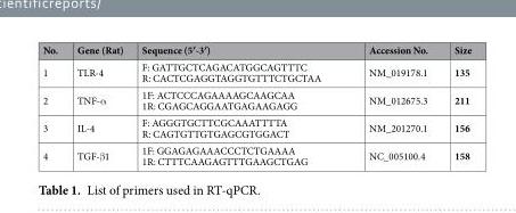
<table><thead><tr><td>No.</td><td>Gene (Rat)</td><td>Sequence (5′-3′)</td><td>Accession No.</td><td>Size</td></tr></thead><tbody><tr><td>1</td><td>TLR-4</td><td>F: GATTGCTCAGACATGGCAGTTTC R: CACTCGAGGTAGGTGTTTCTGCTAA</td><td>NM_019178.1</td><td>135</td></tr><tr><td>2</td><td>TNF-α</td><td>1F: ACTCCCAGAAAAGCAAGCAA 1R: CGAGCAGGAATGAGAAGAGG</td><td>NM_012675.3</td><td>211</td></tr><tr><td>3</td><td>IL-4</td><td>F: AGGGTGCTTCGCAAATTTTA R: CAGTGTTGTGAGCGTGGACT</td><td>NM_201270.1</td><td>156</td></tr><tr><td>4</td><td>TGF-β1</td><td>1F: GGAGAGAAACCCTCTGAAAA 1R: CTTTCAAGAGTTTGAAGCTGAG</td><td>NC_005100.4</td><td>158</td></tr></tbody></table>